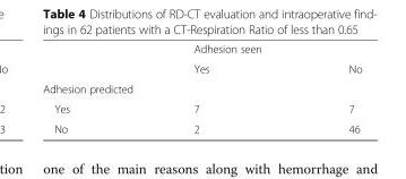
<table><thead><tr><td rowspan="2"></td><td colspan="2">Adhesion seen</td></tr><tr><td>Yes</td><td>No</td></tr></thead><tbody><tr><td colspan="3">Adhesion predicted</td></tr><tr><td>Yes</td><td>7</td><td>7</td></tr><tr><td>No</td><td>2</td><td>46</td></tr></tbody></table>